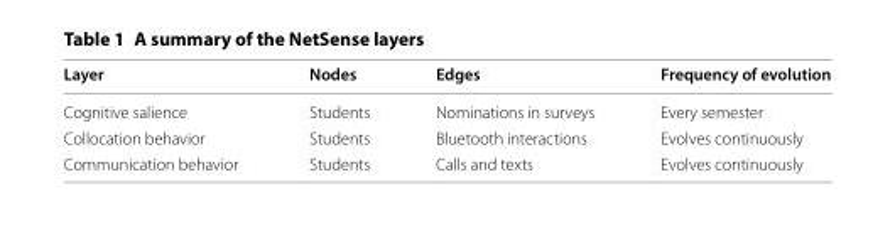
<table><thead><tr><td>Layer</td><td>Nodes</td><td>Edges</td><td>Frequency of evolution</td></tr></thead><tbody><tr><td>Cognitive salience</td><td>Students</td><td>Nominations in surveys</td><td>Every semester</td></tr><tr><td>Collocation behavior</td><td>Students</td><td>Bluetooth interactions</td><td>Evolves continuously</td></tr><tr><td>Communication behavior</td><td>Students</td><td>Calls and texts</td><td>Evolves continuously</td></tr></tbody></table>